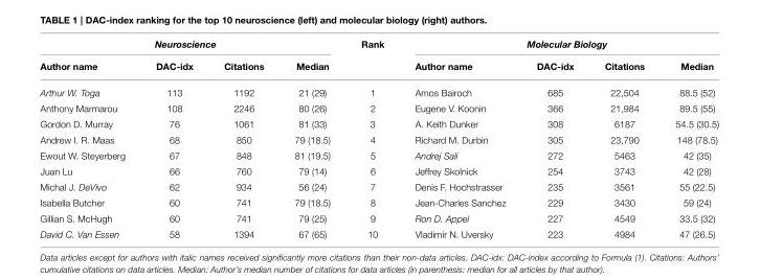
<table><thead><tr><td colspan="4">Neuroscience</td><td rowspan="2">Rank</td><td colspan="4">Molecular Biology</td></tr><tr><td>Author name</td><td>DAC-idx</td><td>Citations</td><td>Median</td><td>Author name</td><td>DAC-idx</td><td>Citations</td><td>Median</td></tr></thead><tbody><tr><td>Arthur W. Toga</td><td>113</td><td>1192</td><td>21 (29)</td><td>1</td><td>Amos Bairoch</td><td>685</td><td>22,504</td><td>88.5 (52)</td></tr><tr><td>Anthony Marmarou</td><td>108</td><td>2246</td><td>80 (26)</td><td>2</td><td>Eugene V. Koonin</td><td>366</td><td>21,984</td><td>89.5 (55)</td></tr><tr><td>Gordon D. Murray</td><td>76</td><td>1061</td><td>81 (33)</td><td>3</td><td>A. Keith Dunker</td><td>308</td><td>6187</td><td>54.5 (30.5)</td></tr><tr><td>Andrew I. R. Maas</td><td>68</td><td>850</td><td>79 (18.5)</td><td>4</td><td>Richard M. Durbin</td><td>305</td><td>23,790</td><td>148 (78.5)</td></tr><tr><td>Ewout W. Steyerberg</td><td>67</td><td>848</td><td>81 (19.5)</td><td>5</td><td>Andrej Sali</td><td>272</td><td>5463</td><td>42 (35)</td></tr><tr><td>Juan Lu</td><td>66</td><td>760</td><td>79 (14)</td><td>6</td><td>Jeffrey Skolnick</td><td>254</td><td>3743</td><td>42 (28)</td></tr><tr><td>Michal J. DeVivo</td><td>62</td><td>934</td><td>56 (24)</td><td>7</td><td>Denis F. Hochstrasser</td><td>235</td><td>3561</td><td>55 (22.5)</td></tr><tr><td>Isabella Butcher</td><td>60</td><td>741</td><td>79 (18.5)</td><td>8</td><td>Jean-Charles Sanchez</td><td>229</td><td>3430</td><td>59 (24)</td></tr><tr><td>Gillian S. McHugh</td><td>60</td><td>741</td><td>79 (25)</td><td>9</td><td>Ron D. Appel</td><td>227</td><td>4549</td><td>33.5 (32)</td></tr><tr><td>David C. Van Essen</td><td>58</td><td>1394</td><td>67 (65)</td><td>10</td><td>Vladimir N. Uversky</td><td>223</td><td>4984</td><td>47 (26.5)</td></tr></tbody></table>